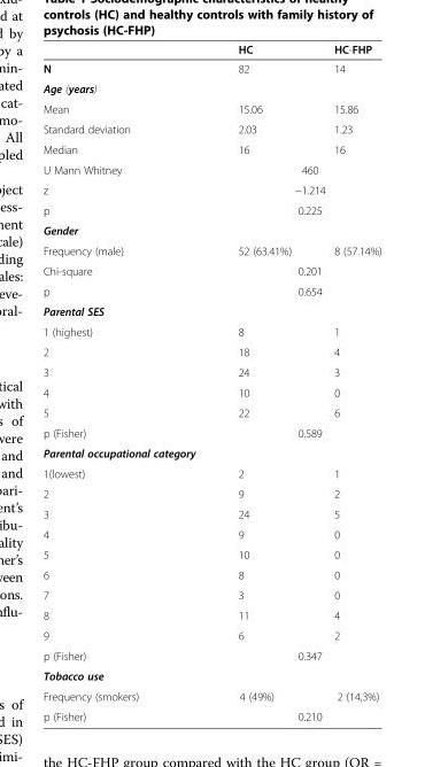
<table><thead><tr><td></td><td>HC</td><td>HC-FHP</td></tr></thead><tbody><tr><td>N</td><td>82</td><td>14</td></tr><tr><td colspan="3">Age (years)</td></tr><tr><td>Mean</td><td>15.06</td><td>15.86</td></tr><tr><td>Standard deviation</td><td>2.03</td><td>1.23</td></tr><tr><td>Median</td><td>16</td><td>16</td></tr><tr><td>U Mann Whitney</td><td>460</td><td></td></tr><tr><td>z</td><td>−1.214</td><td></td></tr><tr><td>p</td><td>0.225</td><td></td></tr><tr><td colspan="3">Gender</td></tr><tr><td>Frequency (male)</td><td>52 (63.41%)</td><td>8 (57.14%)</td></tr><tr><td>Chi-square</td><td>0.201</td><td></td></tr><tr><td>p</td><td>0.654</td><td></td></tr><tr><td colspan="3">Parental SES</td></tr><tr><td>1 (highest)</td><td>8</td><td>1</td></tr><tr><td>2</td><td>18</td><td>4</td></tr><tr><td>3</td><td>24</td><td>3</td></tr><tr><td>4</td><td>10</td><td>0</td></tr><tr><td>5</td><td>22</td><td>6</td></tr><tr><td>p (Fisher)</td><td>0.589</td><td></td></tr><tr><td colspan="3">Parental occupational category</td></tr><tr><td>1(lowest)</td><td>2</td><td>1</td></tr><tr><td>2</td><td>9</td><td>2</td></tr><tr><td>3</td><td>24</td><td>5</td></tr><tr><td>4</td><td>9</td><td>0</td></tr><tr><td>5</td><td>10</td><td>0</td></tr><tr><td>6</td><td>8</td><td>0</td></tr><tr><td>7</td><td>3</td><td>0</td></tr><tr><td>8</td><td>11</td><td>4</td></tr><tr><td>9</td><td>6</td><td>2</td></tr><tr><td>p (Fisher)</td><td>0.347</td><td></td></tr><tr><td colspan="3">Tobacco use</td></tr><tr><td>Frequency (smokers)</td><td>4 (49%)</td><td>2 (14,3%)</td></tr><tr><td>p (Fisher)</td><td>0.210</td><td></td></tr></tbody></table>